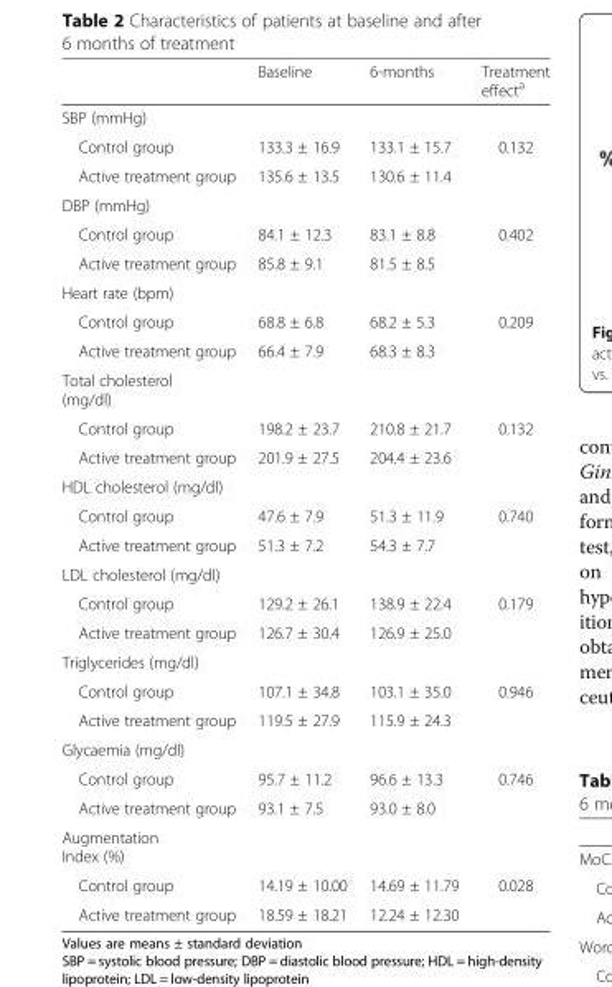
<table><thead><tr><td></td><td>Baseline</td><td>6-months</td><td>Treatment effect<sup>a</sup></td></tr></thead><tbody><tr><td colspan="4">SBP (mmHg)</td></tr><tr><td>Control group</td><td>133.3 ± 16.9</td><td>133.1 ± 15.7</td><td rowspan="2">0.132</td></tr><tr><td>Active treatment group</td><td>135.6 ± 13.5</td><td>130.6 ± 11.4</td></tr><tr><td colspan="4">DBP (mmHg)</td></tr><tr><td>Control group</td><td>84.1 ± 12.3</td><td>83.1 ± 8.8</td><td rowspan="2">0.402</td></tr><tr><td>Active treatment group</td><td>85.8 ± 9.1</td><td>81.5 ± 8.5</td></tr><tr><td colspan="4">Heart rate (bpm)</td></tr><tr><td>Control group</td><td>68.8 ± 6.8</td><td>68.2 ± 5.3</td><td rowspan="2">0.209</td></tr><tr><td>Active treatment group</td><td>66.4 ± 7.9</td><td>68.3 ± 8.3</td></tr><tr><td colspan="4">Total cholesterol (mg/dl)</td></tr><tr><td>Control group</td><td>198.2 ± 23.7</td><td>210.8 ± 21.7</td><td rowspan="2">0.132</td></tr><tr><td>Active treatment group</td><td>201.9 ± 27.5</td><td>204.4 ± 23.6</td></tr><tr><td colspan="4">HDL cholesterol (mg/dl)</td></tr><tr><td>Control group</td><td>47.6 ± 7.9</td><td>51.3 ± 11.9</td><td rowspan="2">0.740</td></tr><tr><td>Active treatment group</td><td>51.3 ± 7.2</td><td>54.3 ± 7.7</td></tr><tr><td colspan="4">LDL cholesterol (mg/dl)</td></tr><tr><td>Control group</td><td>129.2 ± 26.1</td><td>138.9 ± 22.4</td><td rowspan="2">0.179</td></tr><tr><td>Active treatment group</td><td>126.7 ± 30.4</td><td>126.9 ± 25.0</td></tr><tr><td colspan="4">Triglycerides (mg/dl)</td></tr><tr><td>Control group</td><td>107.1 ± 34.8</td><td>103.1 ± 35.0</td><td rowspan="2">0.946</td></tr><tr><td>Active treatment group</td><td>119.5 ± 27.9</td><td>115.9 ± 24.3</td></tr><tr><td colspan="4">Glycaemia (mg/dl)</td></tr><tr><td>Control group</td><td>95.7 ± 11.2</td><td>96.6 ± 13.3</td><td rowspan="2">0.746</td></tr><tr><td>Active treatment group</td><td>93.1 ± 7.5</td><td>93.0 ± 8.0</td></tr><tr><td colspan="4">Augmentation Index (%)</td></tr><tr><td>Control group</td><td>14.19 ± 10.00</td><td>14.69 ± 11.79</td><td rowspan="2">0.028</td></tr><tr><td>Active treatment group</td><td>18.59 ± 18.21</td><td>12.24 ± 12.30</td></tr></tbody></table>